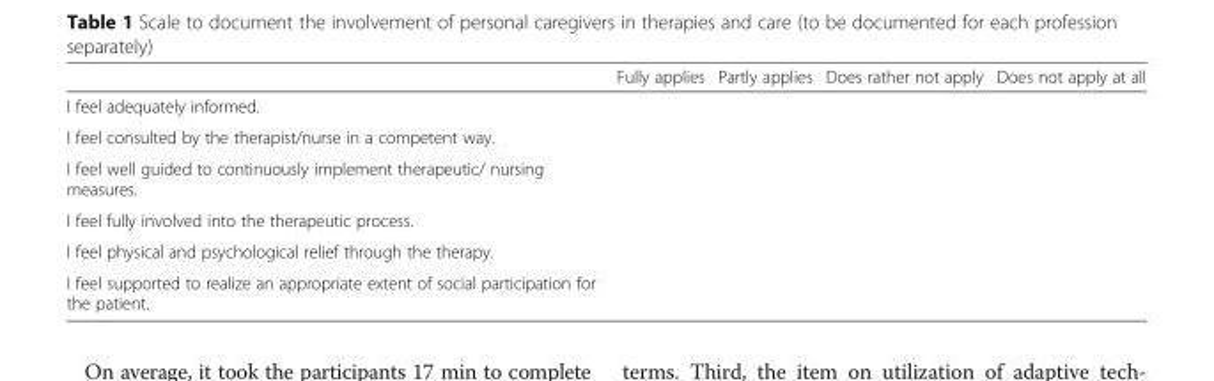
<table><thead><tr><td></td><td>Fully applies</td><td>Partly applies</td><td>Does rather not apply</td><td>Does not apply at all</td></tr></thead><tbody><tr><td colspan="5">I feel adequately informed.</td></tr><tr><td colspan="5">I feel consulted by the therapist/nurse in a competent way.</td></tr><tr><td colspan="5">I feel well guided to continuously implement therapeutic/ nursing measures.</td></tr><tr><td colspan="5">I feel fully involved into the therapeutic process.</td></tr><tr><td colspan="5">I feel physical and psychological relief through the therapy.</td></tr><tr><td>I feel supported to realize an appropriate extent of social participation for the patient.</td><td></td><td></td><td></td><td></td></tr></tbody></table>